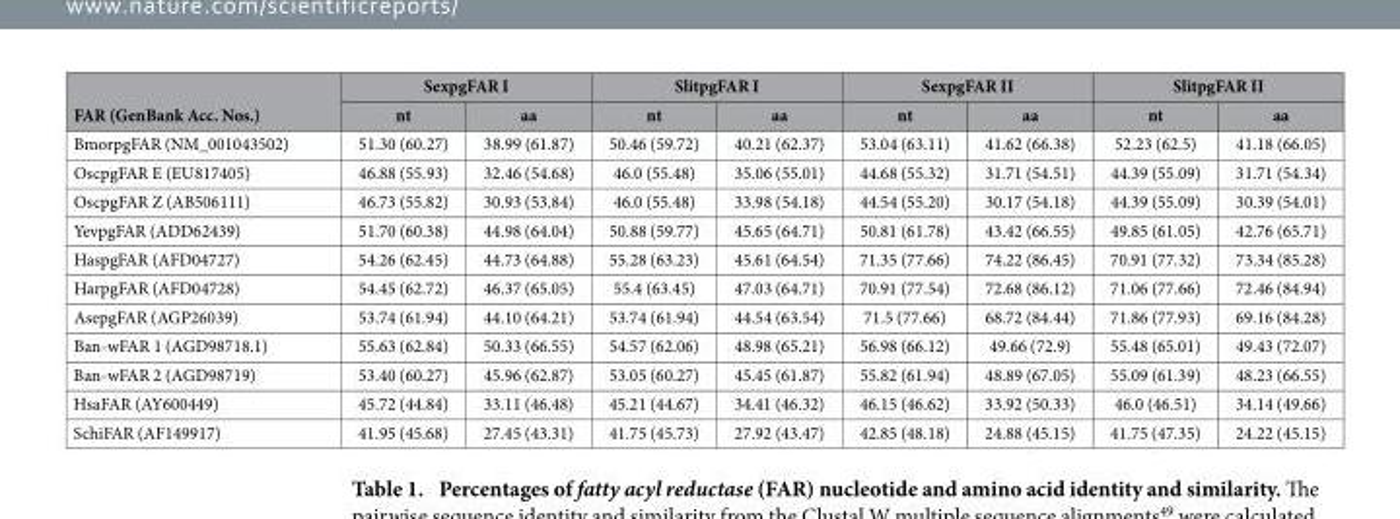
<table><thead><tr><td rowspan="2">FAR (GenBank Acc. Nos.)</td><td colspan="2">SexpgFAR I</td><td colspan="2">SlitpgFAR I</td><td colspan="2">SexpgFAR II</td><td colspan="2">SlitpgFAR II</td></tr><tr><td>nt</td><td>aa</td><td>nt</td><td>aa</td><td>nt</td><td>aa</td><td>nt</td><td>aa</td></tr></thead><tbody><tr><td>BmorpgFAR (NM_001043502)</td><td>51.30 (60.27)</td><td>38.99 (61.87)</td><td>50.46 (59.72)</td><td>40.21 (62.37)</td><td>53.04 (63.11)</td><td>41.62 (66.38)</td><td>52.23 (62.5)</td><td>41.18 (66.05)</td></tr><tr><td>OscpgFAR E (EU817405)</td><td>46.88 (55.93)</td><td>32.46 (54.68)</td><td>46.0 (55.48)</td><td>35.06 (55.01)</td><td>44.68 (55.32)</td><td>31.71 (54.51)</td><td>44.39 (55.09)</td><td>31.71 (54.34)</td></tr><tr><td>OscpgFAR Z (AB506111)</td><td>46.73 (55.82)</td><td>30.93 (53.84)</td><td>46.0 (55.48)</td><td>33.98 (54.18)</td><td>44.54 (55.20)</td><td>30.17 (54.18)</td><td>44.39 (55.09)</td><td>30.39 (54.01)</td></tr><tr><td>YevpgFAR (ADD62439)</td><td>51.70 (60.38)</td><td>44.98 (64.04)</td><td>50.88 (59.77)</td><td>45.65 (64.71)</td><td>50.81 (61.78)</td><td>43.42 (66.55)</td><td>49.85 (61.05)</td><td>42.76 (65.71)</td></tr><tr><td>HaspgFAR (AFD04727)</td><td>54.26 (62.45)</td><td>44.73 (64.88)</td><td>55.28 (63.23)</td><td>45.61 (64.54)</td><td>71.35 (77.66)</td><td>74.22 (86.45)</td><td>70.91 (77.32)</td><td>73.34 (85.28)</td></tr><tr><td>HarpgFAR (AFD04728)</td><td>54.45 (62.72)</td><td>46.37 (65.05)</td><td>55.4 (63.45)</td><td>47.03 (64.71)</td><td>70.91 (77.54)</td><td>72.68 (86.12)</td><td>71.06 (77.66)</td><td>72.46 (84.94)</td></tr><tr><td>AsepgFAR (AGP26039)</td><td>53.74 (61.94)</td><td>44.10 (64.21)</td><td>53.74 (61.94)</td><td>44.54 (63.54)</td><td>71.5 (77.66)</td><td>68.72 (84.44)</td><td>71.86 (77.93)</td><td>69.16 (84.28)</td></tr><tr><td>Ban-wFAR 1 (AGD98718.1)</td><td>55.63 (62.84)</td><td>50.33 (66.55)</td><td>54.57 (62.06)</td><td>48.98 (65.21)</td><td>56.98 (66.12)</td><td>49.66 (72.9)</td><td>55.48 (65.01)</td><td>49.43 (72.07)</td></tr><tr><td>Ban-wFAR 2 (AGD98719)</td><td>53.40 (60.27)</td><td>45.96 (62.87)</td><td>53.05 (60.27)</td><td>45.45 (61.87)</td><td>55.82 (61.94)</td><td>48.89 (67.05)</td><td>55.09 (61.39)</td><td>48.23 (66.55)</td></tr><tr><td>HsaFAR (AY600449)</td><td>45.72 (44.84)</td><td>33.11 (46.48)</td><td>45.21 (44.67)</td><td>34.41 (46.32)</td><td>46.15 (46.62)</td><td>33.92 (50.33)</td><td>46.0 (46.51)</td><td>34.14 (49.66)</td></tr><tr><td>SchiFAR (AF149917)</td><td>41.95 (45.68)</td><td>27.45 (43.31)</td><td>41.75 (45.73)</td><td>27.92 (43.47)</td><td>42.85 (48.18)</td><td>24.88 (45.15)</td><td>41.75 (47.35)</td><td>24.22 (45.15)</td></tr></tbody></table>